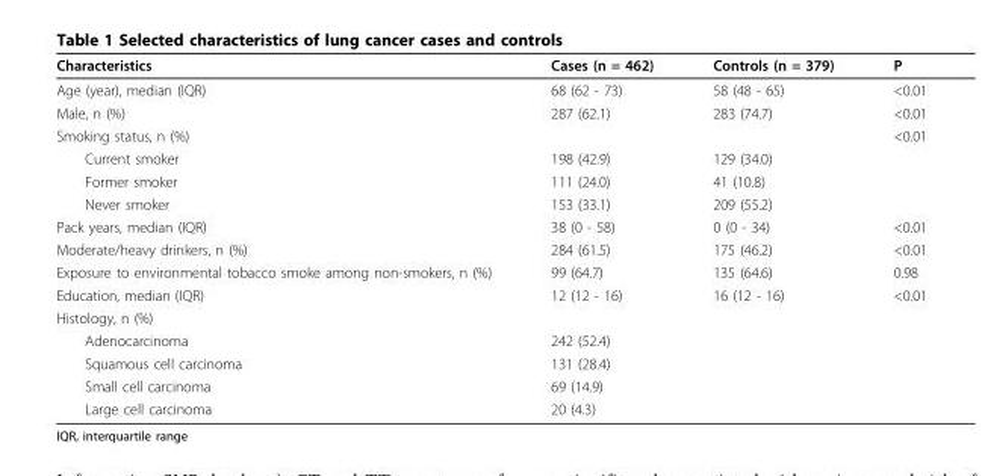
<table><thead><tr><td>Characteristics</td><td>Cases (n = 462)</td><td>Controls (n = 379)</td><td>P</td></tr></thead><tbody><tr><td>Age (year), median (IQR)</td><td>68 (62 - 73)</td><td>58 (48 - 65)</td><td>&lt;0.01</td></tr><tr><td>Male, n (%)</td><td>287 (62.1)</td><td>283 (74.7)</td><td>&lt;0.01</td></tr><tr><td>Smoking status, n (%)</td><td></td><td></td><td>&lt;0.01</td></tr><tr><td>Current smoker</td><td>198 (42.9)</td><td>129 (34.0)</td><td></td></tr><tr><td>Former smoker</td><td>111 (24.0)</td><td>41 (10.8)</td><td></td></tr><tr><td>Never smoker</td><td>153 (33.1)</td><td>209 (55.2)</td><td></td></tr><tr><td>Pack years, median (IQR)</td><td>38 (0 - 58)</td><td>0 (0 - 34)</td><td>&lt;0.01</td></tr><tr><td>Moderate/heavy drinkers, n (%)</td><td>284 (61.5)</td><td>175 (46.2)</td><td>&lt;0.01</td></tr><tr><td>Exposure to environmental tobacco smoke among non-smokers, n (%)</td><td>99 (64.7)</td><td>135 (64.6)</td><td>0.98</td></tr><tr><td>Education, median (IQR)</td><td>12 (12 - 16)</td><td>16 (12 - 16)</td><td>&lt;0.01</td></tr><tr><td colspan="4">Histology, n (%)</td></tr><tr><td>Adenocarcinoma</td><td>242 (52.4)</td><td></td><td></td></tr><tr><td>Squamous cell carcinoma</td><td>131 (28.4)</td><td></td><td></td></tr><tr><td>Small cell carcinoma</td><td>69 (14.9)</td><td></td><td></td></tr><tr><td>Large cell carcinoma</td><td>20 (4.3)</td><td></td><td></td></tr></tbody></table>